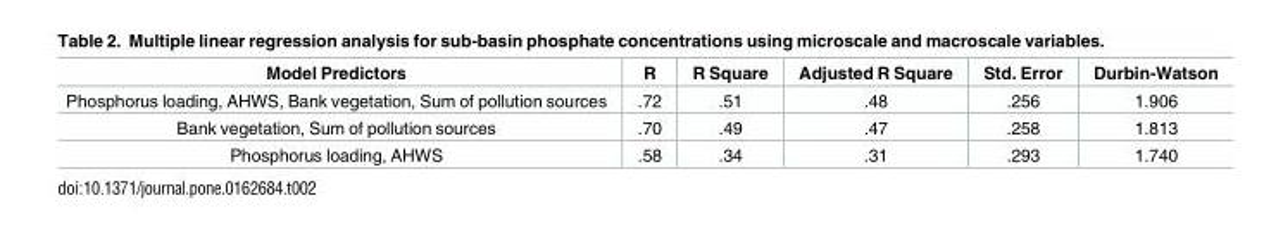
<table><thead><tr><td>Model Predictors</td><td>R</td><td>R Square</td><td>Adjusted R Square</td><td>Std. Error</td><td>Durbin-Watson</td></tr></thead><tbody><tr><td>Phosphorus loading, AHWS, Bank vegetation, Sum of pollution sources</td><td>.72</td><td>.51</td><td>.48</td><td>.256</td><td>1.906</td></tr><tr><td>Bank vegetation, Sum of pollution sources</td><td>.70</td><td>.49</td><td>.47</td><td>.258</td><td>1.813</td></tr><tr><td>Phosphorus loading, AHWS</td><td>.58</td><td>.34</td><td>.31</td><td>.293</td><td>1.740</td></tr></tbody></table>